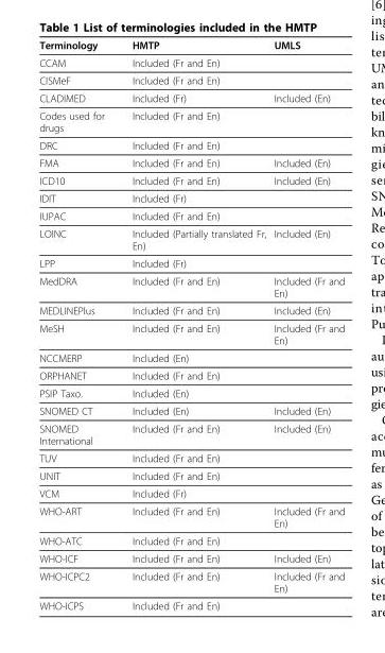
<table><thead><tr><td>Terminology</td><td>HMTP</td><td>UMLS</td></tr></thead><tbody><tr><td>CCAM</td><td>Included (Fr and En)</td><td></td></tr><tr><td>CISMeF</td><td>Included (Fr and En)</td><td></td></tr><tr><td>CLADIMED</td><td>Included (Fr)</td><td>Included (En)</td></tr><tr><td>Codes used for drugs</td><td>Included (Fr and En)</td><td></td></tr><tr><td>DRC</td><td>Included (Fr and En)</td><td></td></tr><tr><td>FMA</td><td>Included (Fr and En)</td><td>Included (En)</td></tr><tr><td>ICD10</td><td>Included (Fr and En)</td><td>Included (En)</td></tr><tr><td>IDIT</td><td>Included (Fr)</td><td></td></tr><tr><td>IUPAC</td><td>Included (Fr and En)</td><td></td></tr><tr><td>LOINC</td><td>Included (Partially translated Fr, En)</td><td>Included (En)</td></tr><tr><td>LPP</td><td>Included (Fr)</td><td></td></tr><tr><td>MedDRA</td><td>Included (Fr and En)</td><td>Included (Fr and En)</td></tr><tr><td>MEDLINEPlus</td><td>Included (Fr and En)</td><td>Included (En)</td></tr><tr><td>MeSH</td><td>Included (Fr and En)</td><td>Included (Fr and En)</td></tr><tr><td>NCCMERP</td><td>Included (En)</td><td></td></tr><tr><td>ORPHANET</td><td>Included (Fr and En)</td><td></td></tr><tr><td>PSIP Taxo.</td><td>Included (En)</td><td></td></tr><tr><td>SNOMED CT</td><td>Included (En)</td><td>Included (En)</td></tr><tr><td>SNOMED International</td><td>Included (Fr and En)</td><td>Included (En)</td></tr><tr><td>TUV</td><td>Included (Fr and En)</td><td></td></tr><tr><td>UNIT</td><td>Included (Fr and En)</td><td></td></tr><tr><td>VCM</td><td>Included (Fr)</td><td></td></tr><tr><td>WHO-ART</td><td>Included (Fr and En)</td><td>Included (Fr and En)</td></tr><tr><td>WHO-ATC</td><td>Included (Fr and En)</td><td></td></tr><tr><td>WHO-ICF</td><td>Included (Fr and En)</td><td>Included (En)</td></tr><tr><td>WHO-ICPC2</td><td>Included (Fr and En)</td><td>Included (Fr and En)</td></tr><tr><td>WHO-ICPS</td><td>Included (Fr and En)</td><td></td></tr></tbody></table>